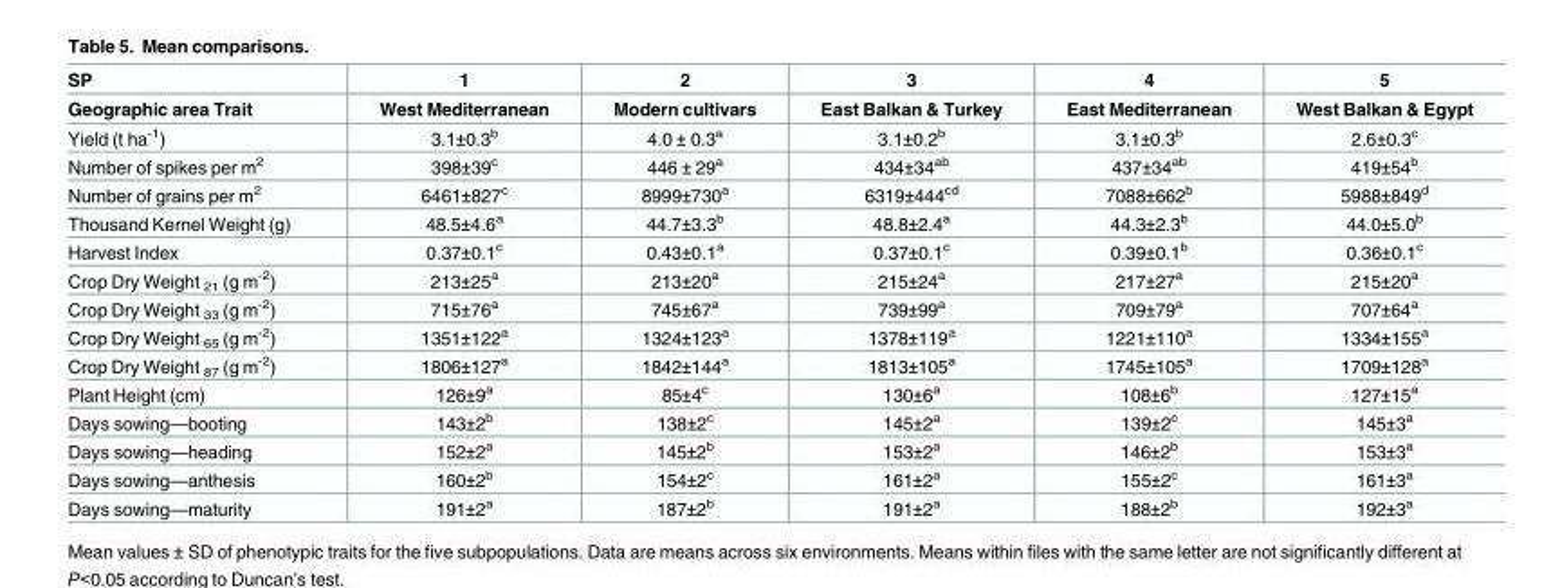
<table><thead><tr><td rowspan="2">SP Geographic area Trait</td><td rowspan="2">1 West Mediterranean</td><td rowspan="2">2 Modern cultivars</td><td rowspan="2">3 East Balkan &amp; Turkey</td><td rowspan="2">4 East Mediterranean</td><td rowspan="2">5 West Balkan &amp; Egypt</td></tr><tr></tr></thead><tbody><tr><td>Yield (t ha<sup>-1</sup>)</td><td>3.1±0.3<sup>b</sup></td><td>4.0 ± 0.3<sup>a</sup></td><td>3.1±0.2<sup>b</sup></td><td>3.1±0.3<sup>b</sup></td><td>2.6±0.3<sup>c</sup></td></tr><tr><td>Number of spikes per m<sup>2</sup></td><td>398±39<sup>c</sup></td><td>446 ± 29<sup>a</sup></td><td>434±34<sup>ab</sup></td><td>437±34<sup>ab</sup></td><td>419±54<sup>b</sup></td></tr><tr><td>Number of grains per m<sup>2</sup></td><td>6461±827<sup>c</sup></td><td>8999±730<sup>a</sup></td><td>6319±444<sup>cd</sup></td><td>7088±662<sup>b</sup></td><td>5988±849<sup>d</sup></td></tr><tr><td>Thousand Kernel Weight (g)</td><td>48.5±4.6<sup>a</sup></td><td>44.7±3.3<sup>b</sup></td><td>48.8±2.4<sup>a</sup></td><td>44.3±2.3<sup>b</sup></td><td>44.0±5.0<sup>b</sup></td></tr><tr><td>Harvest Index</td><td>0.37±0.1<sup>c</sup></td><td>0.43±0.1<sup>a</sup></td><td>0.37±0.1<sup>c</sup></td><td>0.39±0.1<sup>b</sup></td><td>0.36±0.1<sup>c</sup></td></tr><tr><td>Crop Dry Weight <sub>21</sub> (g m<sup>-2</sup>)</td><td>213±25<sup>a</sup></td><td>213±20<sup>a</sup></td><td>215±24<sup>a</sup></td><td>217±27<sup>a</sup></td><td>215±20<sup>a</sup></td></tr><tr><td>Crop Dry Weight <sub>33</sub> (g m<sup>-2</sup>)</td><td>715±76<sup>a</sup></td><td>745±67<sup>a</sup></td><td>739±99<sup>a</sup></td><td>709±79<sup>a</sup></td><td>707±64<sup>a</sup></td></tr><tr><td>Crop Dry Weight <sub>65</sub> (g m<sup>-2</sup>)</td><td>1351±122<sup>a</sup></td><td>1324±123<sup>a</sup></td><td>1378±119<sup>a</sup></td><td>1221±110<sup>a</sup></td><td>1334±155<sup>a</sup></td></tr><tr><td>Crop Dry Weight <sub>87</sub> (g m<sup>-2</sup>)</td><td>1806±127<sup>a</sup></td><td>1842±144<sup>a</sup></td><td>1813±105<sup>a</sup></td><td>1745±105<sup>a</sup></td><td>1709±128<sup>a</sup></td></tr><tr><td>Plant Height (cm)</td><td>126±9<sup>a</sup></td><td>85±4<sup>c</sup></td><td>130±6<sup>a</sup></td><td>108±6<sup>b</sup></td><td>127±15<sup>a</sup></td></tr><tr><td>Days sowing—booting</td><td>143±2<sup>b</sup></td><td>138±2<sup>c</sup></td><td>145±2<sup>a</sup></td><td>139±2<sup>c</sup></td><td>145±3<sup>a</sup></td></tr><tr><td>Days sowing—heading</td><td>152±2<sup>a</sup></td><td>145±2<sup>b</sup></td><td>153±2<sup>a</sup></td><td>146±2<sup>b</sup></td><td>153±3<sup>a</sup></td></tr><tr><td>Days sowing—anthesis</td><td>160±2<sup>b</sup></td><td>154±2<sup>c</sup></td><td>161±2<sup>a</sup></td><td>155±2<sup>c</sup></td><td>161±3<sup>a</sup></td></tr><tr><td>Days sowing—maturity</td><td>191±2<sup>a</sup></td><td>187±2<sup>b</sup></td><td>191±2<sup>a</sup></td><td>188±2<sup>b</sup></td><td>192±3<sup>a</sup></td></tr></tbody></table>